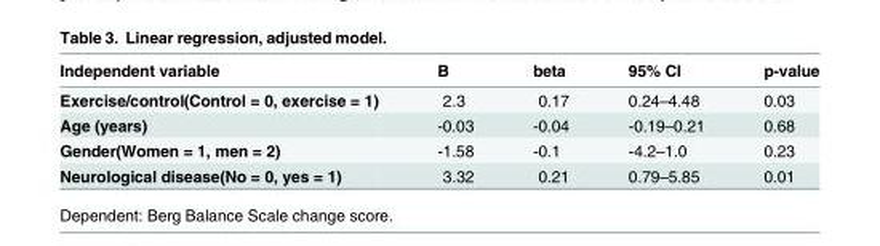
<table><thead><tr><td>Independent variable</td><td>B</td><td>beta</td><td>95% CI</td><td>p-value</td></tr></thead><tbody><tr><td>Exercise/control(Control = 0, exercise = 1)</td><td>2.3</td><td>0.17</td><td>0.24–4.48</td><td>0.03</td></tr><tr><td>Age (years)</td><td>-0.03</td><td>-0.04</td><td>-0.19–0.21</td><td>0.68</td></tr><tr><td>Gender(Women = 1, men = 2)</td><td>-1.58</td><td>-0.1</td><td>-4.2–1.0</td><td>0.23</td></tr><tr><td>Neurological disease(No = 0, yes = 1)</td><td>3.32</td><td>0.21</td><td>0.79–5.85</td><td>0.01</td></tr></tbody></table>